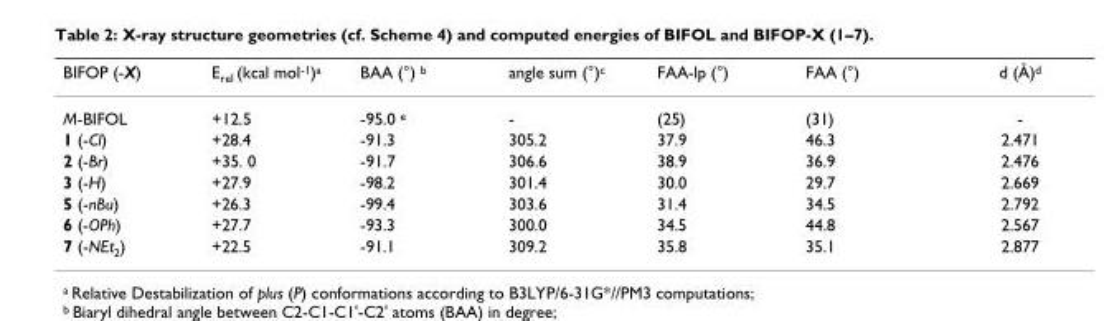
<table><thead><tr><td>BIFOP (-X)</td><td>E<sub>rel</sub> (kcal mol<sup>-1</sup>)<sup>a</sup></td><td>BAA (°) <sup>b</sup></td><td>angle sum (°)<sup>c</sup></td><td>FAA-lp (°)</td><td>FAA (°)</td><td>d (Å)<sup>d</sup></td></tr></thead><tbody><tr><td>M-BIFOL</td><td>+12.5</td><td>-95.0 <sup>e</sup></td><td>-</td><td>(25)</td><td>(31)</td><td>-</td></tr><tr><td>1 (-Cl)</td><td>+28.4</td><td>-91.3</td><td>305.2</td><td>37.9</td><td>46.3</td><td>2.471</td></tr><tr><td>2 (-Br)</td><td>+35. 0</td><td>-91.7</td><td>306.6</td><td>38.9</td><td>36.9</td><td>2.476</td></tr><tr><td>3 (-H)</td><td>+27.9</td><td>-98.2</td><td>301.4</td><td>30.0</td><td>29.7</td><td>2.669</td></tr><tr><td>5 (-nBu)</td><td>+26.3</td><td>-99.4</td><td>303.6</td><td>31.4</td><td>34.5</td><td>2.792</td></tr><tr><td>6 (-OPh)</td><td>+27.7</td><td>-93.3</td><td>300.0</td><td>34.5</td><td>44.8</td><td>2.567</td></tr><tr><td>7 (-NEt<sub>2</sub>)</td><td>+22.5</td><td>-91.1</td><td>309.2</td><td>35.8</td><td>35.1</td><td>2.877</td></tr></tbody></table>